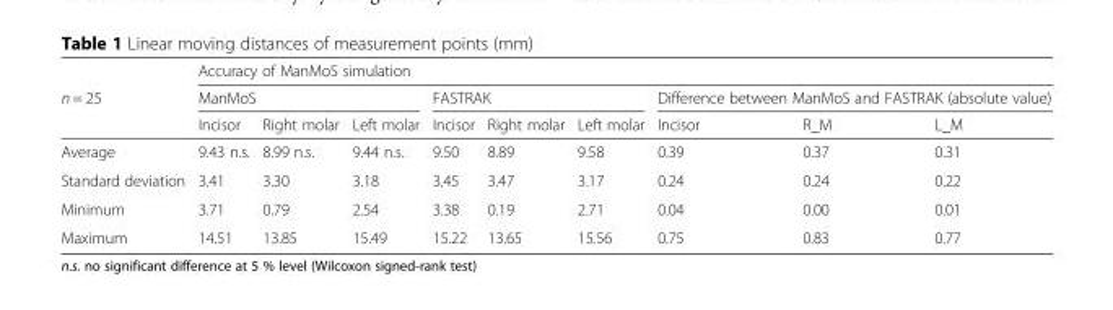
<table><thead><tr><td rowspan="3">n = 25</td><td colspan="9">Accuracy of ManMoS simulation</td></tr><tr><td colspan="3">ManMoS</td><td colspan="3">FASTRAK</td><td colspan="3">Difference between ManMoS and FASTRAK (absolute value)</td></tr><tr><td>Incisor</td><td>Right molar</td><td>Left molar</td><td>Incisor</td><td>Right molar</td><td>Left molar</td><td>Incisor</td><td>R_M</td><td>L_M</td></tr></thead><tbody><tr><td>Average</td><td>9.43 n.s.</td><td>8.99 n.s.</td><td>9.44 n.s.</td><td>9.50</td><td>8.89</td><td>9.58</td><td>0.39</td><td>0.37</td><td>0.31</td></tr><tr><td>Standard deviation</td><td>3.41</td><td>3.30</td><td>3.18</td><td>3.45</td><td>3.47</td><td>3.17</td><td>0.24</td><td>0.24</td><td>0.22</td></tr><tr><td>Minimum</td><td>3.71</td><td>0.79</td><td>2.54</td><td>3.38</td><td>0.19</td><td>2.71</td><td>0.04</td><td>0.00</td><td>0.01</td></tr><tr><td>Maximum</td><td>14.51</td><td>13.85</td><td>15.49</td><td>15.22</td><td>13.65</td><td>15.56</td><td>0.75</td><td>0.83</td><td>0.77</td></tr></tbody></table>